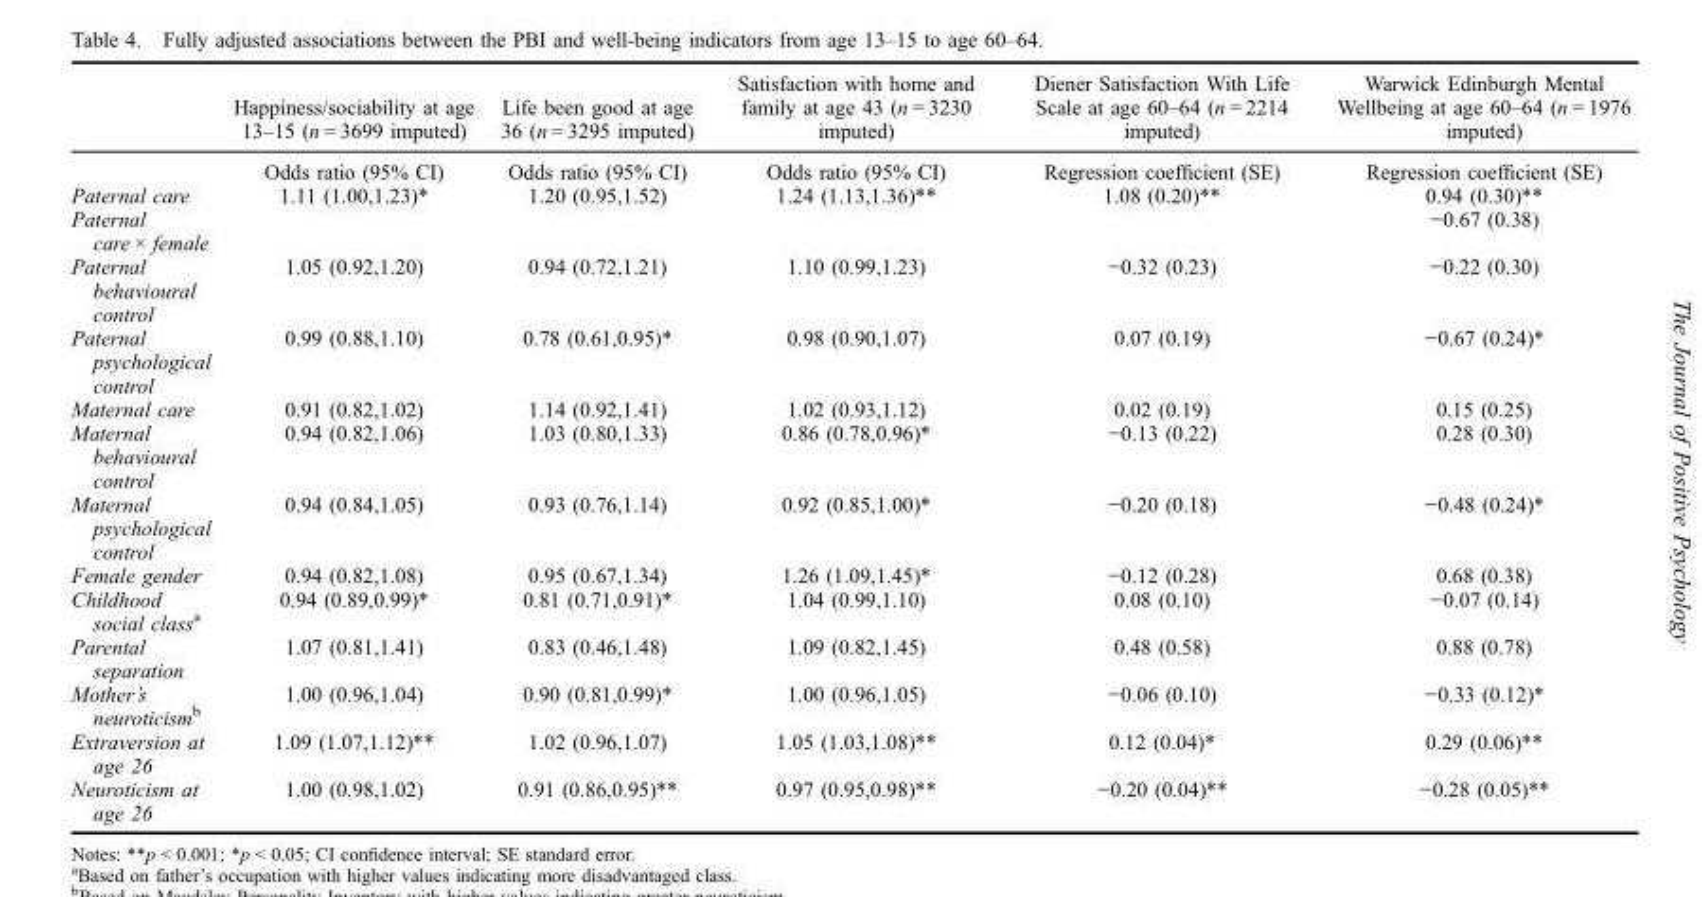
<table><thead><tr><td></td><td>Happiness/sociability at age 13–15 (n = 3699 imputed)</td><td>Life been good at age 36 (n = 3295 imputed)</td><td>Satisfaction with home and family at age 43 (n = 3230 imputed)</td><td>Diener Satisfaction With Life Scale at age 60–64 (n = 2214 imputed)</td><td>Warwick Edinburgh Mental Wellbeing at age 60–64 (n = 1976 imputed)</td></tr></thead><tbody><tr><td></td><td>Odds ratio (95% CI)</td><td>Odds ratio (95% CI)</td><td>Odds ratio (95% CI)</td><td>Regression coefficient (SE)</td><td>Regression coefficient (SE)</td></tr><tr><td>Paternal care</td><td>1.11 (1.00,1.23)*</td><td>1.20 (0.95,1.52)</td><td>1.24 (1.13,1.36)**</td><td>1.08 (0.20)**</td><td>0.94 (0.30)**</td></tr><tr><td>Paternal care × female</td><td></td><td></td><td></td><td></td><td>−0.67 (0.38)</td></tr><tr><td>Paternal behavioural control</td><td>1.05 (0.92,1.20)</td><td>0.94 (0.72,1.21)</td><td>1.10 (0.99,1.23)</td><td>−0.32 (0.23)</td><td>−0.22 (0.30)</td></tr><tr><td>Paternal psychological control</td><td>0.99 (0.88,1.10)</td><td>0.78 (0.61,0.95)*</td><td>0.98 (0.90,1.07)</td><td>0.07 (0.19)</td><td>−0.67 (0.24)*</td></tr><tr><td>Maternal care</td><td>0.91 (0.82,1.02)</td><td>1.14 (0.92,1.41)</td><td>1.02 (0.93,1.12)</td><td>0.02 (0.19)</td><td>0.15 (0.25)</td></tr><tr><td>Maternal behavioural control</td><td>0.94 (0.82,1.06)</td><td>1.03 (0.80,1.33)</td><td>0.86 (0.78,0.96)*</td><td>−0.13 (0.22)</td><td>0.28 (0.30)</td></tr><tr><td>Maternal psychological control</td><td>0.94 (0.84,1.05)</td><td>0.93 (0.76,1.14)</td><td>0.92 (0.85,1.00)*</td><td>−0.20 (0.18)</td><td>−0.48 (0.24)*</td></tr><tr><td>Female gender</td><td>0.94 (0.82,1.08)</td><td>0.95 (0.67,1.34)</td><td>1.26 (1.09,1.45)*</td><td>−0.12 (0.28)</td><td>0.68 (0.38)</td></tr><tr><td>Childhood social class<sup>a</sup></td><td>0.94 (0.89,0.99)*</td><td>0.81 (0.71,0.91)*</td><td>1.04 (0.99,1.10)</td><td>0.08 (0.10)</td><td>−0.07 (0.14)</td></tr><tr><td>Parental separation</td><td>1.07 (0.81,1.41)</td><td>0.83 (0.46,1.48)</td><td>1.09 (0.82,1.45)</td><td>0.48 (0.58)</td><td>0.88 (0.78)</td></tr><tr><td>Mother’s neuroticism<sup>b</sup></td><td>1.00 (0.96,1.04)</td><td>0.90 (0.81,0.99)*</td><td>1.00 (0.96,1.05)</td><td>−0.06 (0.10)</td><td>−0.33 (0.12)*</td></tr><tr><td>Extraversion at age 26</td><td>1.09 (1.07,1.12)**</td><td>1.02 (0.96,1.07)</td><td>1.05 (1.03,1.08)**</td><td>0.12 (0.04)*</td><td>0.29 (0.06)**</td></tr><tr><td>Neuroticism at age 26</td><td>1.00 (0.98,1.02)</td><td>0.91 (0.86,0.95)**</td><td>0.97 (0.95,0.98)**</td><td>−0.20 (0.04)**</td><td>−0.28 (0.05)**</td></tr></tbody></table>